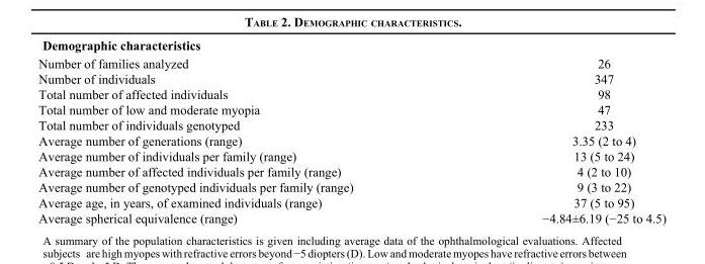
<table><thead><tr><td colspan="2">Demographic characteristics</td></tr><tr><td>Number of families analyzed</td><td>26</td></tr></thead><tbody><tr><td>Number of individuals</td><td>347</td></tr><tr><td>Total number of affected individuals</td><td>98</td></tr><tr><td>Total number of low and moderate myopia</td><td>47</td></tr><tr><td>Total number of individuals genotyped</td><td>233</td></tr><tr><td>Average number of generations (range)</td><td>3.35 (2 to 4)</td></tr><tr><td>Average number of individuals per family (range)</td><td>13 (5 to 24)</td></tr><tr><td>Average number of affected individuals per family (range)</td><td>4 (2 to 10)</td></tr><tr><td>Average number of genotyped individuals per family (range)</td><td>9 (3 to 22)</td></tr><tr><td>Average age, in years, of examined individuals (range)</td><td>37 (5 to 95)</td></tr><tr><td>Average spherical equivalence (range)</td><td>−4.84±6.19 (−25 to 4.5)</td></tr></tbody></table>